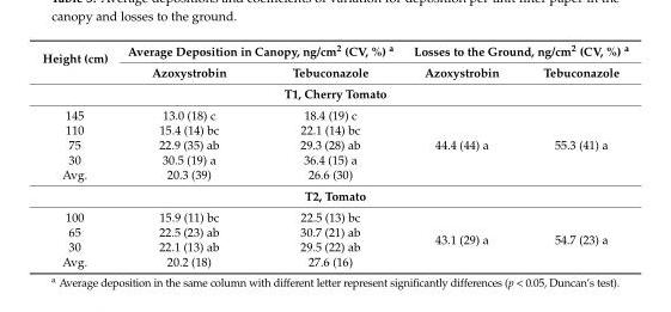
<table><thead><tr><td rowspan="2">Height (cm)</td><td colspan="2">Average Deposition in Canopy, ng/cm<sup>2</sup> (CV, %) <sup>a</sup></td><td colspan="2">Losses to the Ground, ng/cm<sup>2</sup> (CV, %) <sup>a</sup></td></tr><tr><td>Azoxystrobin</td><td>Tebuconazole</td><td>Azoxystrobin</td><td>Tebuconazole</td></tr></thead><tbody><tr><td colspan="5">T1, Cherry Tomato</td></tr><tr><td>145</td><td>13.0 (18) c</td><td>18.4 (19) c</td><td rowspan="5">44.4 (44) a</td><td rowspan="5">55.3 (41) a</td></tr><tr><td>110</td><td>15.4 (14) bc</td><td>22.1 (14) bc</td></tr><tr><td>75</td><td>22.9 (35) ab</td><td>29.3 (28) ab</td></tr><tr><td>30</td><td>30.5 (19) a</td><td>36.4 (15) a</td></tr><tr><td>Avg.</td><td>20.3 (39)</td><td>26.6 (30)</td></tr><tr><td colspan="5">T2, Tomato</td></tr><tr><td>100</td><td>15.9 (11) bc</td><td>22.5 (13) bc</td><td rowspan="4">43.1 (29) a</td><td rowspan="4">54.7 (23) a</td></tr><tr><td>65</td><td>22.5 (23) ab</td><td>30.7 (21) ab</td></tr><tr><td>30</td><td>22.1 (13) ab</td><td>29.5 (22) ab</td></tr><tr><td>Avg.</td><td>20.2 (18)</td><td>27.6 (16)</td></tr></tbody></table>